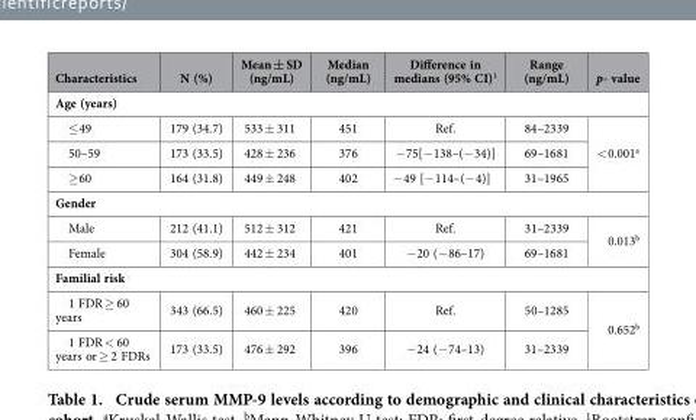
<table><thead><tr><td>Characteristics</td><td>N (%)</td><td>Mean ± SD (ng/mL)</td><td>Median (ng/mL)</td><td>Difference in medians (95% CI)<sup>1</sup></td><td>Range (ng/mL)</td><td>p- value</td></tr></thead><tbody><tr><td colspan="7">Age (years)</td></tr><tr><td>≤ 49</td><td>179 (34.7)</td><td>533 ± 311</td><td>451</td><td>Ref.</td><td>84–2339</td><td rowspan="3">&lt; 0.001<sup>a</sup></td></tr><tr><td>50–59</td><td>173 (33.5)</td><td>428 ± 236</td><td>376</td><td>− 75[− 138–(− 34)]</td><td>69–1681</td></tr><tr><td>≥ 60</td><td>164 (31.8)</td><td>449 ± 248</td><td>402</td><td>− 49 [− 114–(− 4)]</td><td>31–1965</td></tr><tr><td colspan="7">Gender</td></tr><tr><td>Male</td><td>212 (41.1)</td><td>512 ± 312</td><td>421</td><td>Ref.</td><td>31–2339</td><td rowspan="2">0.013<sup>b</sup></td></tr><tr><td>Female</td><td>304 (58.9)</td><td>442 ± 234</td><td>401</td><td>− 20 (− 86–17)</td><td>69–1681</td></tr><tr><td colspan="7">Familial risk</td></tr><tr><td>1 FDR ≥ 60 years</td><td>343 (66.5)</td><td>460 ± 225</td><td>420</td><td>Ref.</td><td>50–1285</td><td rowspan="2">0.652<sup>b</sup></td></tr><tr><td>1 FDR &lt; 60 years or ≥ 2 FDRs</td><td>173 (33.5)</td><td>476 ± 292</td><td>396</td><td>− 24 (− 74–13)</td><td>31–2339</td></tr></tbody></table>